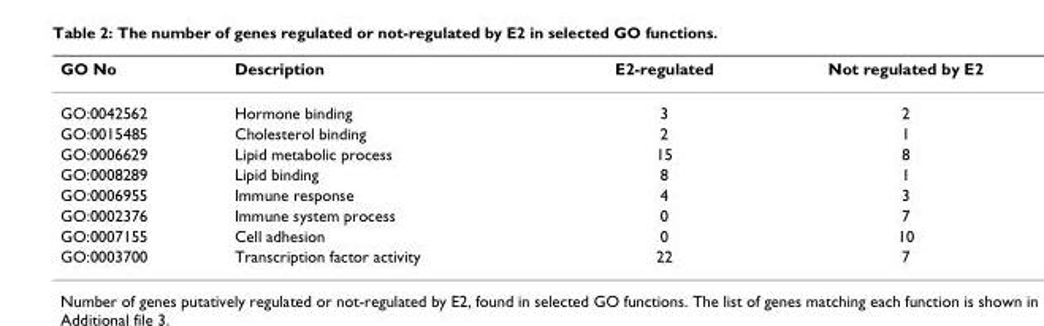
<table><thead><tr><td>GO No</td><td>Description</td><td>E2-regulated</td><td>Not regulated by E2</td></tr></thead><tbody><tr><td>GO:0042562</td><td>Hormone binding</td><td>3</td><td>2</td></tr><tr><td>GO:0015485</td><td>Cholesterol binding</td><td>2</td><td>1</td></tr><tr><td>GO:0006629</td><td>Lipid metabolic process</td><td>15</td><td>8</td></tr><tr><td>GO:0008289</td><td>Lipid binding</td><td>8</td><td>1</td></tr><tr><td>GO:0006955</td><td>Immune response</td><td>4</td><td>3</td></tr><tr><td>GO:0002376</td><td>Immune system process</td><td>0</td><td>7</td></tr><tr><td>GO:0007155</td><td>Cell adhesion</td><td>0</td><td>10</td></tr><tr><td>GO:0003700</td><td>Transcription factor activity</td><td>22</td><td>7</td></tr></tbody></table>